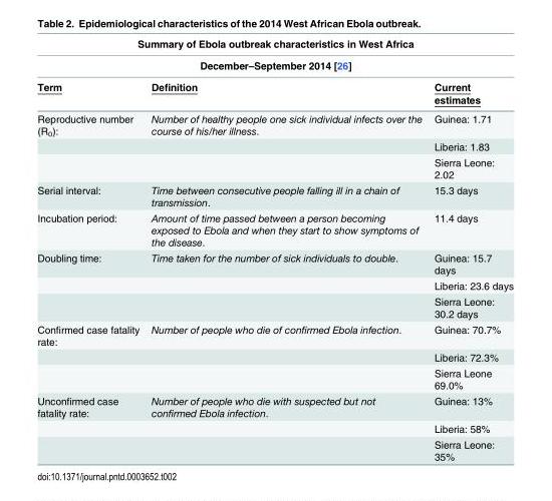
<table><thead><tr><td rowspan="2" colspan="3">Summary of Ebola outbreak characteristics in West Africa December–September 2014 [26]</td></tr><tr></tr><tr><td>Term</td><td>Definition</td><td>Current estimates</td></tr></thead><tbody><tr><td rowspan="3">Reproductive number (R<sub>0</sub>):</td><td>Number of healthy people one sick individual infects over the course of his/her illness.</td><td>Guinea: 1.71</td></tr><tr><td></td><td>Liberia: 1.83</td></tr><tr><td></td><td>Sierra Leone: 2.02</td></tr><tr><td>Serial interval:</td><td>Time between consecutive people falling ill in a chain of transmission.</td><td>15.3 days</td></tr><tr><td>Incubation period:</td><td>Amount of time passed between a person becoming exposed to Ebola and when they start to show symptoms of the disease.</td><td>11.4 days</td></tr><tr><td rowspan="3">Doubling time:</td><td>Time taken for the number of sick individuals to double.</td><td>Guinea: 15.7 days</td></tr><tr><td></td><td>Liberia: 23.6 days</td></tr><tr><td></td><td>Sierra Leone: 30.2 days</td></tr><tr><td rowspan="3">Confirmed case fatality rate:</td><td>Number of people who die of confirmed Ebola infection.</td><td>Guinea: 70.7%</td></tr><tr><td></td><td>Liberia: 72.3%</td></tr><tr><td></td><td>Sierra Leone 69.0%</td></tr><tr><td rowspan="3">Unconfirmed case fatality rate:</td><td>Number of people who die with suspected but not confirmed Ebola infection.</td><td>Guinea: 13%</td></tr><tr><td></td><td>Liberia: 58%</td></tr><tr><td></td><td>Sierra Leone: 35%</td></tr></tbody></table>